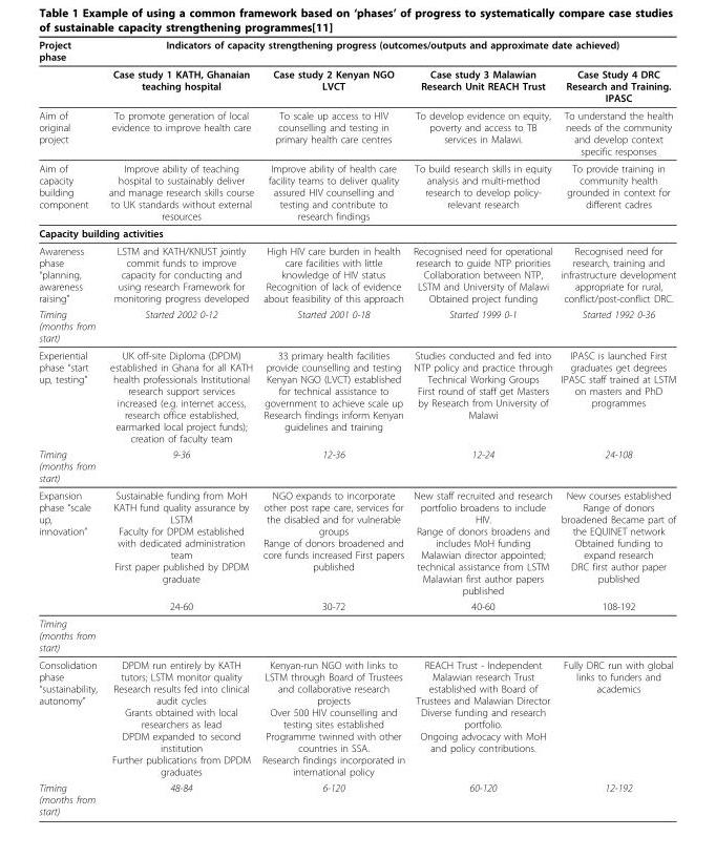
<table><thead><tr><td rowspan="2">Project phase</td><td colspan="4">Indicators of capacity strengthening progress (outcomes/outputs and approximate date achieved)</td></tr><tr><td>Case study 1 KATH, Ghanaian teaching hospital</td><td>Case study 2 Kenyan NGO LVCT</td><td>Case study 3 Malawian Research Unit REACH Trust</td><td>Case Study 4 DRC Research and Training. IPASC</td></tr></thead><tbody><tr><td>Aim of original project</td><td>To promote generation of local evidence to improve health care</td><td>To scale up access to HIV counselling and testing in primary health care centres</td><td>To develop evidence on equity, poverty and access to TB services in Malawi.</td><td>To understand the health needs of the community and develop context specific responses</td></tr><tr><td>Aim of capacity building component</td><td>Improve ability of teaching hospital to sustainably deliver and manage research skills course to UK standards without external resources</td><td>Improve ability of health care facility teams to deliver quality assured HIV counselling and testing and contribute to research findings</td><td>To build research skills in equity analysis and multi-method research to develop policy- relevant research</td><td>To provide training in community health grounded in context for different cadres</td></tr><tr><td colspan="5">Capacity building activities</td></tr><tr><td>Awareness phase “planning, awareness raising”</td><td>LSTM and KATH/KNUST jointly commit funds to improve capacity for conducting and using research Framework for monitoring progress developed</td><td>High HIV care burden in health care facilities with little knowledge of HIV status Recognition of lack of evidence about feasibility of this approach</td><td>Recognised need for operational research to guide NTP priorities Collaboration between NTP, LSTM and University of Malawi Obtained project funding</td><td>Recognised need for research, training and infrastructure development appropriate for rural, conflict/post-conflict DRC.</td></tr><tr><td>Timing (months from start)</td><td>Started 2002 0-12</td><td>Started 2001 0-18</td><td>Started 1999 0-1</td><td>Started 1992 0-36</td></tr><tr><td>Experiential phase “start up, testing”</td><td>UK off-site Diploma (DPDM) established in Ghana for all KATH health professionals Institutional research support services increased (e.g. internet access, research office established, earmarked local project funds); creation of faculty team</td><td>33 primary health facilities provide counselling and testing Kenyan NGO (LVCT) established for technical assistance to government to achieve scale up Research findings inform Kenyan guidelines and training</td><td>Studies conducted and fed into NTP policy and practice through Technical Working Groups First round of staff get Masters by Research from University of Malawi</td><td>IPASC is launched First graduates get degrees IPASC staff trained at LSTM on masters and PhD programmes</td></tr><tr><td>Timing (months from start)</td><td>9-36</td><td>12-36</td><td>12-24</td><td>24-108</td></tr><tr><td rowspan="2">Expansion phase “scale up, innovation”</td><td>Sustainable funding from MoH KATH fund quality assurance by LSTM Faculty for DPDM established with dedicated administration team First paper published by DPDM graduate</td><td>NGO expands to incorporate other post rape care, services for the disabled and for vulnerable groups Range of donors broadened and core funds increased First papers published</td><td>New staff recruited and research portfolio broadens to include HIV. Range of donors broadens and includes MoH funding Malawian director appointed; technical assistance from LSTM Malawian first author papers published</td><td>New courses established Range of donors broadened Became part of the EQUINET network Obtained funding to expand research DRC first author paper published</td></tr><tr><td>24-60</td><td>30-72</td><td>40-60</td><td>108-192</td></tr><tr><td colspan="5">Timing (months from start)</td></tr><tr><td>Consolidation phase “sustainability, autonomy”</td><td>DPDM run entirely by KATH tutors; LSTM monitor quality Research results fed into clinical audit cycles Grants obtained with local researchers as lead DPDM expanded to second institution Further publications from DPDM graduates</td><td>Kenyan-run NGO with links to LSTM through Board of Trustees and collaborative research projects Over 500 HIV counselling and testing sites established Programme twinned with other countries in SSA. Research findings incorporated in international policy</td><td>REACH Trust - Independent Malawian research Trust established with Board of Trustees and Malawian Director Diverse funding and research portfolio. Ongoing advocacy with MoH and policy contributions.</td><td>Fully DRC run with global links to funders and academics</td></tr><tr><td>Timing (months from start)</td><td>48-84</td><td>6-120</td><td>60-120</td><td>12-192</td></tr></tbody></table>